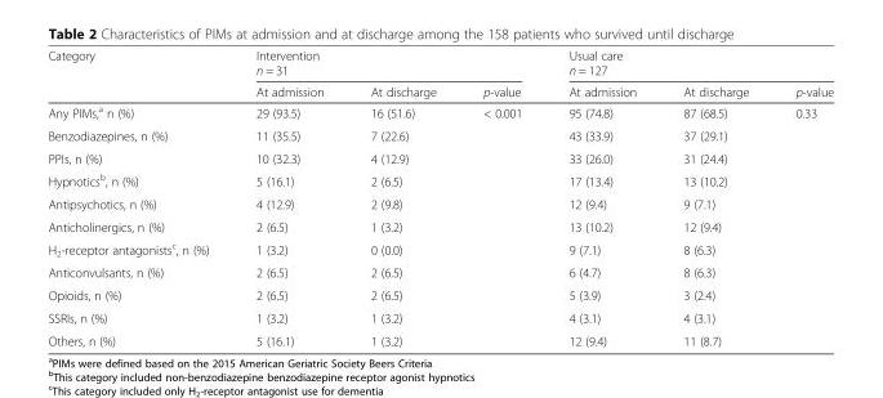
<table><thead><tr><td rowspan="2">Category</td><td colspan="3">Intervention n = 31</td><td colspan="3">Usual care n = 127</td></tr><tr><td>At admission</td><td>At discharge</td><td>p-value</td><td>At admission</td><td>At discharge</td><td>p-value</td></tr></thead><tbody><tr><td>Any PIMs,<sup>a</sup> n (%)</td><td>29 (93.5)</td><td>16 (51.6)</td><td>&lt; 0.001</td><td>95 (74.8)</td><td>87 (68.5)</td><td>0.33</td></tr><tr><td>Benzodiazepines, n (%)</td><td>11 (35.5)</td><td>7 (22.6)</td><td></td><td>43 (33.9)</td><td>37 (29.1)</td><td></td></tr><tr><td>PPIs, n (%)</td><td>10 (32.3)</td><td>4 (12.9)</td><td></td><td>33 (26.0)</td><td>31 (24.4)</td><td></td></tr><tr><td>Hypnotics<sup>b</sup>, n (%)</td><td>5 (16.1)</td><td>2 (6.5)</td><td></td><td>17 (13.4)</td><td>13 (10.2)</td><td></td></tr><tr><td>Antipsychotics, n (%)</td><td>4 (12.9)</td><td>2 (9.8)</td><td></td><td>12 (9.4)</td><td>9 (7.1)</td><td></td></tr><tr><td>Anticholinergics, n (%)</td><td>2 (6.5)</td><td>1 (3.2)</td><td></td><td>13 (10.2)</td><td>12 (9.4)</td><td></td></tr><tr><td>H<sub>2</sub>-receptor antagonists<sup>c</sup>, n (%)</td><td>1 (3.2)</td><td>0 (0.0)</td><td></td><td>9 (7.1)</td><td>8 (6.3)</td><td></td></tr><tr><td>Anticonvulsants, n (%)</td><td>2 (6.5)</td><td>2 (6.5)</td><td></td><td>6 (4.7)</td><td>8 (6.3)</td><td></td></tr><tr><td>Opioids, n (%)</td><td>2 (6.5)</td><td>2 (6.5)</td><td></td><td>5 (3.9)</td><td>3 (2.4)</td><td></td></tr><tr><td>SSRIs, n (%)</td><td>1 (3.2)</td><td>1 (3.2)</td><td></td><td>4 (3.1)</td><td>4 (3.1)</td><td></td></tr><tr><td>Others, n (%)</td><td>5 (16.1)</td><td>1 (3.2)</td><td></td><td>12 (9.4)</td><td>11 (8.7)</td><td></td></tr></tbody></table>